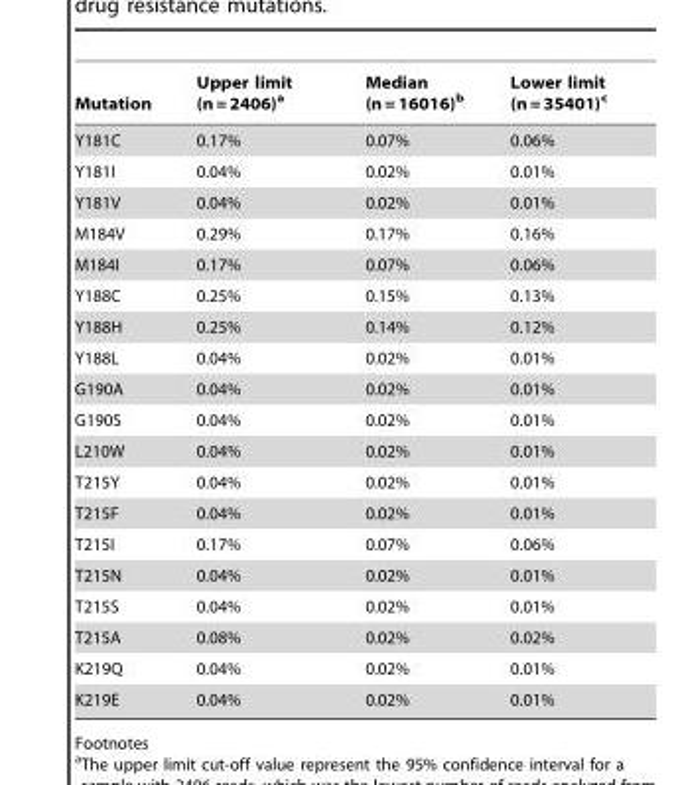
<table><thead><tr><td>Mutation</td><td>Upper limit (n = 2406)<sup>a</sup></td><td>Median (n = 16016)<sup>b</sup></td><td>Lower limit (n = 35401)<sup>c</sup></td></tr></thead><tbody><tr><td>Y181C</td><td>0.17%</td><td>0.07%</td><td>0.06%</td></tr><tr><td>Y181I</td><td>0.04%</td><td>0.02%</td><td>0.01%</td></tr><tr><td>Y181V</td><td>0.04%</td><td>0.02%</td><td>0.01%</td></tr><tr><td>M184V</td><td>0.29%</td><td>0.17%</td><td>0.16%</td></tr><tr><td>M184I</td><td>0.17%</td><td>0.07%</td><td>0.06%</td></tr><tr><td>Y188C</td><td>0.25%</td><td>0.15%</td><td>0.13%</td></tr><tr><td>Y188H</td><td>0.25%</td><td>0.14%</td><td>0.12%</td></tr><tr><td>Y188L</td><td>0.04%</td><td>0.02%</td><td>0.01%</td></tr><tr><td>G190A</td><td>0.04%</td><td>0.02%</td><td>0.01%</td></tr><tr><td>G190S</td><td>0.04%</td><td>0.02%</td><td>0.01%</td></tr><tr><td>L210W</td><td>0.04%</td><td>0.02%</td><td>0.01%</td></tr><tr><td>T215Y</td><td>0.04%</td><td>0.02%</td><td>0.01%</td></tr><tr><td>T215F</td><td>0.04%</td><td>0.02%</td><td>0.01%</td></tr><tr><td>T215I</td><td>0.17%</td><td>0.07%</td><td>0.06%</td></tr><tr><td>T215N</td><td>0.04%</td><td>0.02%</td><td>0.01%</td></tr><tr><td>T215S</td><td>0.04%</td><td>0.02%</td><td>0.01%</td></tr><tr><td>T215A</td><td>0.08%</td><td>0.02%</td><td>0.02%</td></tr><tr><td>K219Q</td><td>0.04%</td><td>0.02%</td><td>0.01%</td></tr><tr><td>K219E</td><td>0.04%</td><td>0.02%</td><td>0.01%</td></tr></tbody></table>